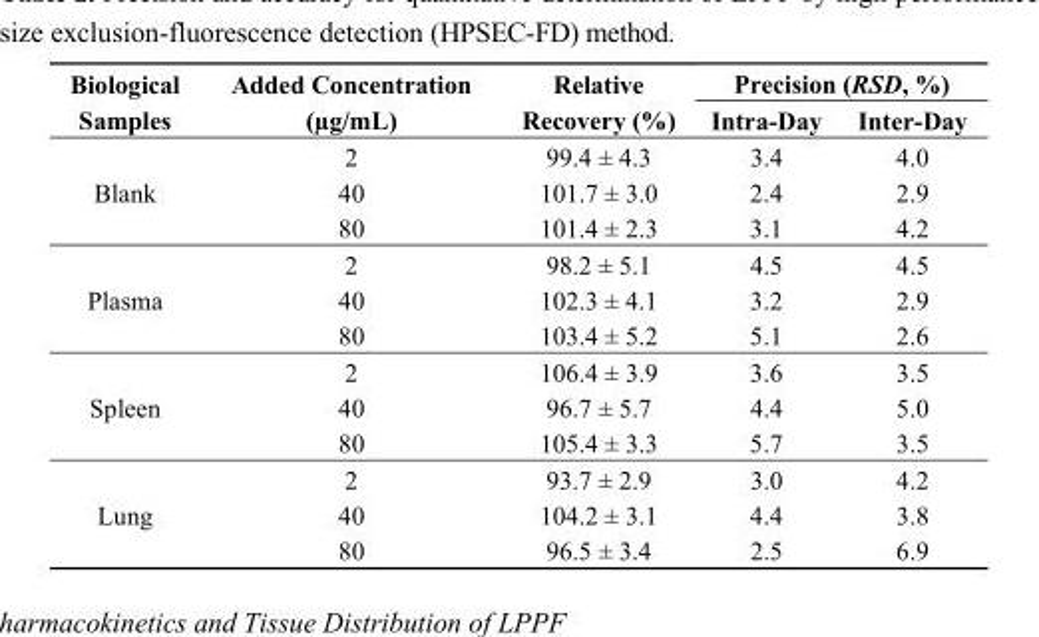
<table><thead><tr><td rowspan="2">Biological Samples</td><td rowspan="2">Added Concentration (µg/mL)</td><td rowspan="2">Relative Recovery (%)</td><td colspan="2">Precision (RSD, %)</td></tr><tr><td>Intra-Day</td><td>Inter-Day</td></tr></thead><tbody><tr><td rowspan="3">Blank</td><td>2</td><td>99.4 ± 4.3</td><td>3.4</td><td>4.0</td></tr><tr><td>40</td><td>101.7 ± 3.0</td><td>2.4</td><td>2.9</td></tr><tr><td>80</td><td>101.4 ± 2.3</td><td>3.1</td><td>4.2</td></tr><tr><td rowspan="3">Plasma</td><td>2</td><td>98.2 ± 5.1</td><td>4.5</td><td>4.5</td></tr><tr><td>40</td><td>102.3 ± 4.1</td><td>3.2</td><td>2.9</td></tr><tr><td>80</td><td>103.4 ± 5.2</td><td>5.1</td><td>2.6</td></tr><tr><td rowspan="3">Spleen</td><td>2</td><td>106.4 ± 3.9</td><td>3.6</td><td>3.5</td></tr><tr><td>40</td><td>96.7 ± 5.7</td><td>4.4</td><td>5.0</td></tr><tr><td>80</td><td>105.4 ± 3.3</td><td>5.7</td><td>3.5</td></tr><tr><td rowspan="3">Lung</td><td>2</td><td>93.7 ± 2.9</td><td>3.0</td><td>4.2</td></tr><tr><td>40</td><td>104.2 ± 3.1</td><td>4.4</td><td>3.8</td></tr><tr><td>80</td><td>96.5 ± 3.4</td><td>2.5</td><td>6.9</td></tr></tbody></table>